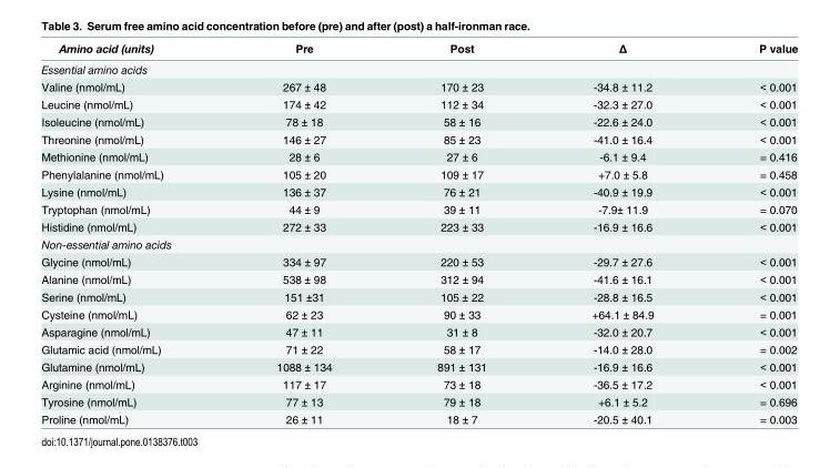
<table><thead><tr><td>Amino acid (units)</td><td>Pre</td><td>Post</td><td>Δ</td><td>P value</td></tr></thead><tbody><tr><td colspan="5">Essential amino acids</td></tr><tr><td>Valine (nmol/mL)</td><td>267 ± 48</td><td>170 ± 23</td><td>-34.8 ± 11.2</td><td>&lt; 0.001</td></tr><tr><td>Leucine (nmol/mL)</td><td>174 ± 42</td><td>112 ± 34</td><td>-32.3 ± 27.0</td><td>&lt; 0.001</td></tr><tr><td>Isoleucine (nmol/mL)</td><td>78 ± 18</td><td>58 ± 16</td><td>-22.6 ± 24.0</td><td>&lt; 0.001</td></tr><tr><td>Threonine (nmol/mL)</td><td>146 ± 27</td><td>85 ± 23</td><td>-41.0 ± 16.4</td><td>&lt; 0.001</td></tr><tr><td>Methionine (nmol/mL)</td><td>28 ± 6</td><td>27 ± 6</td><td>-6.1 ± 9.4</td><td>= 0.416</td></tr><tr><td>Phenylalanine (nmol/mL)</td><td>105 ± 20</td><td>109 ± 17</td><td>+7.0 ± 5.8</td><td>= 0.458</td></tr><tr><td>Lysine (nmol/mL)</td><td>136 ± 37</td><td>76 ± 21</td><td>-40.9 ± 19.9</td><td>&lt; 0.001</td></tr><tr><td>Tryptophan (nmol/mL)</td><td>44 ± 9</td><td>39 ± 11</td><td>-7.9± 11.9</td><td>= 0.070</td></tr><tr><td>Histidine (nmol/mL)</td><td>272 ± 33</td><td>223 ± 33</td><td>-16.9 ± 16.6</td><td>&lt; 0.001</td></tr><tr><td colspan="5">Non-essential amino acids</td></tr><tr><td>Glycine (nmol/mL)</td><td>334 ± 97</td><td>220 ± 53</td><td>-29.7 ± 27.6</td><td>&lt; 0.001</td></tr><tr><td>Alanine (nmol/mL)</td><td>538 ± 98</td><td>312 ± 94</td><td>-41.6 ± 16.1</td><td>&lt; 0.001</td></tr><tr><td>Serine (nmol/mL)</td><td>151 ±31</td><td>105 ± 22</td><td>-28.8 ± 16.5</td><td>&lt; 0.001</td></tr><tr><td>Cysteine (nmol/mL)</td><td>62 ± 23</td><td>90 ± 33</td><td>+64.1 ± 84.9</td><td>= 0.001</td></tr><tr><td>Asparagine (nmol/mL)</td><td>47 ± 11</td><td>31 ± 8</td><td>-32.0 ± 20.7</td><td>&lt; 0.001</td></tr><tr><td>Glutamic acid (nmol/mL)</td><td>71 ± 22</td><td>58 ± 17</td><td>-14.0 ± 28.0</td><td>= 0.002</td></tr><tr><td>Glutamine (nmol/mL)</td><td>1088 ± 134</td><td>891 ± 131</td><td>-16.9 ± 16.6</td><td>&lt; 0.001</td></tr><tr><td>Arginine (nmol/mL)</td><td>117 ± 17</td><td>73 ± 18</td><td>-36.5 ± 17.2</td><td>&lt; 0.001</td></tr><tr><td>Tyrosine (nmol/mL)</td><td>77 ± 13</td><td>79 ± 18</td><td>+6.1 ± 5.2</td><td>= 0.696</td></tr><tr><td>Proline (nmol/mL)</td><td>26 ± 11</td><td>18 ± 7</td><td>-20.5 ± 40.1</td><td>= 0.003</td></tr></tbody></table>